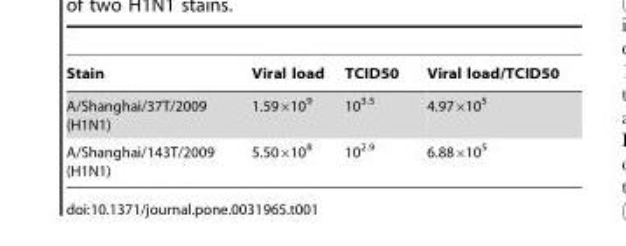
<table><thead><tr><td>Stain</td><td>Viral load</td><td>TCID50</td><td>Viral load/TCID50</td></tr></thead><tbody><tr><td>A/Shanghai/37T/2009 (H1N1)</td><td>1.59×10<sup>9</sup></td><td>10<sup>3.5</sup></td><td>4.97×10<sup>5</sup></td></tr><tr><td>A/Shanghai/143T/2009 (H1N1)</td><td>5.50×10<sup>8</sup></td><td>10<sup>2.9</sup></td><td>6.88×10<sup>5</sup></td></tr></tbody></table>